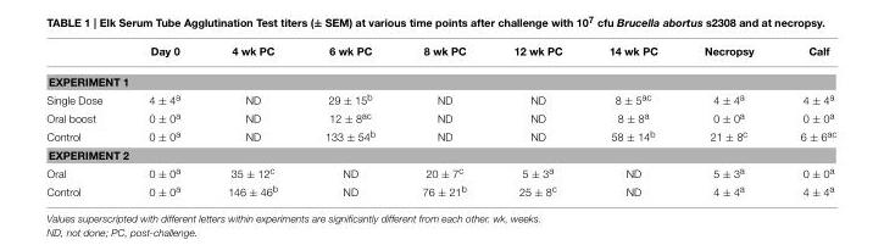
<table><thead><tr><td></td><td>Day 0</td><td>4 wk PC</td><td>6 wk PC</td><td>8 wk PC</td><td>12 wk PC</td><td>14 wk PC</td><td>Necropsy</td><td>Calf</td></tr></thead><tbody><tr><td colspan="9">EXPERIMENT 1</td></tr><tr><td>Single Dose</td><td>4 ± 4<sup>a</sup></td><td>ND</td><td>29 ± 15<sup>b</sup></td><td>ND</td><td>ND</td><td>8 ± 5<sup>ac</sup></td><td>4 ± 4<sup>a</sup></td><td>4 ± 4<sup>a</sup></td></tr><tr><td>Oral boost</td><td>0 ± 0<sup>a</sup></td><td>ND</td><td>12 ± 8<sup>ac</sup></td><td>ND</td><td>ND</td><td>8 ± 8<sup>a</sup></td><td>0 ± 0<sup>a</sup></td><td>0 ± 0<sup>a</sup></td></tr><tr><td>Control</td><td>0 ± 0<sup>a</sup></td><td>ND</td><td>133 ± 54<sup>b</sup></td><td>ND</td><td>ND</td><td>58 ± 14<sup>b</sup></td><td>21 ± 8<sup>c</sup></td><td>6 ± 6<sup>ac</sup></td></tr><tr><td colspan="9">EXPERIMENT 2</td></tr><tr><td>Oral</td><td>0 ± 0<sup>a</sup></td><td>35 ± 12<sup>c</sup></td><td>ND</td><td>20 ± 7<sup>c</sup></td><td>5 ± 3<sup>a</sup></td><td>ND</td><td>5 ± 3<sup>a</sup></td><td>0 ± 0<sup>a</sup></td></tr><tr><td>Control</td><td>0 ± 0<sup>a</sup></td><td>146 ± 46<sup>b</sup></td><td>ND</td><td>76 ± 21<sup>b</sup></td><td>25 ± 8<sup>c</sup></td><td>ND</td><td>4 ± 4<sup>a</sup></td><td>4 ± 4<sup>a</sup></td></tr></tbody></table>